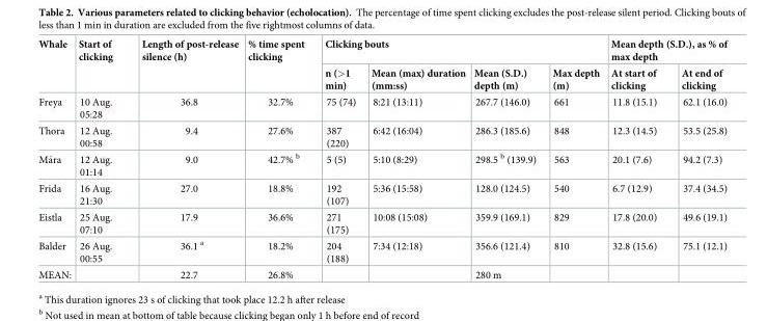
<table><thead><tr><td rowspan="2">Whale</td><td rowspan="2">Start of clicking</td><td rowspan="2">Length of post-release silence (h)</td><td rowspan="2">% time spent clicking</td><td colspan="4">Clicking bouts</td><td colspan="2">Mean depth (S.D.), as % of max depth</td></tr><tr><td>n (&gt;1 min)</td><td>Mean (max) duration (mm:ss)</td><td>Mean (S.D.) depth (m)</td><td>Max depth (m)</td><td>At start of clicking</td><td>At end of clicking</td></tr></thead><tbody><tr><td>Freya</td><td>10 Aug. 05:28</td><td>36.8</td><td>32.7%</td><td>75 (74)</td><td>8:21 (13:11)</td><td>267.7 (146.0)</td><td>661</td><td>11.8 (15.1)</td><td>62.1 (16.0)</td></tr><tr><td>Thora</td><td>12 Aug. 00:58</td><td>9.4</td><td>27.6%</td><td>387 (220)</td><td>6:42 (16:04)</td><td>286.3 (185.6)</td><td>848</td><td>12.3 (14.5)</td><td>53.5 (25.8)</td></tr><tr><td>Ma´ra</td><td>12 Aug. 01:14</td><td>9.0</td><td>42.7% <sup>b</sup></td><td>5 (5)</td><td>5:10 (8:29)</td><td>298.5 <sup>b</sup> (139.9)</td><td>563</td><td>20.1 (7.6)</td><td>94.2 (7.3)</td></tr><tr><td>Frida</td><td>16 Aug. 21:30</td><td>27.0</td><td>18.8%</td><td>192 (107)</td><td>5:36 (15:58)</td><td>128.0 (124.5)</td><td>540</td><td>6.7 (12.9)</td><td>37.4 (34.5)</td></tr><tr><td>Eistla</td><td>25 Aug. 07:10</td><td>17.9</td><td>36.6%</td><td>271 (175)</td><td>10:08 (15:08)</td><td>359.9 (169.1)</td><td>829</td><td>17.8 (20.0)</td><td>49.6 (19.1)</td></tr><tr><td>Balder</td><td>26 Aug. 00:55</td><td>36.1 <sup>a</sup></td><td>18.2%</td><td>204 (188)</td><td>7:34 (12:18)</td><td>356.6 (121.4)</td><td>810</td><td>32.8 (15.6)</td><td>75.1 (12.1)</td></tr><tr><td>MEAN:</td><td></td><td>22.7</td><td>26.8%</td><td></td><td></td><td>280 m</td><td></td><td></td><td></td></tr></tbody></table>